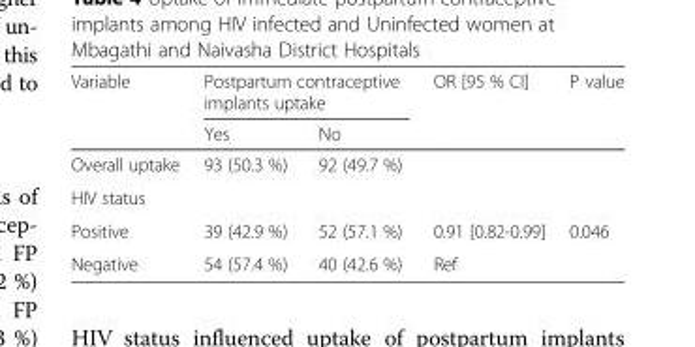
<table><thead><tr><td rowspan="2">Variable</td><td colspan="2">Postpartum contraceptive implants uptake</td><td rowspan="2">OR [95 % CI]</td><td rowspan="2">P value</td></tr><tr><td>Yes</td><td>No</td></tr></thead><tbody><tr><td>Overall uptake</td><td>93 (50.3 %)</td><td>92 (49.7 %)</td><td></td><td></td></tr><tr><td colspan="5">HIV status</td></tr><tr><td>Positive</td><td>39 (42.9 %)</td><td>52 (57.1 %)</td><td>0.91 [0.82-0.99]</td><td>0.046</td></tr><tr><td>Negative</td><td>54 (57.4 %)</td><td>40 (42.6 %)</td><td>Ref</td><td></td></tr></tbody></table>